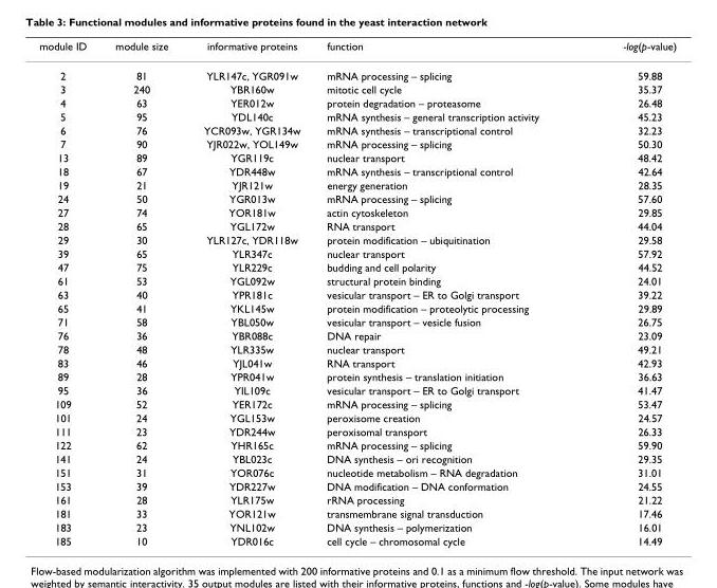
<table><thead><tr><td>module ID</td><td>module size</td><td>informative proteins</td><td>function</td><td>-log(p-value)</td></tr></thead><tbody><tr><td>2</td><td>81</td><td>YLR147c, YGR091w</td><td>mRNA processing – splicing</td><td>59.88</td></tr><tr><td>3</td><td>240</td><td>YBR160w</td><td>mitotic cell cycle</td><td>35.37</td></tr><tr><td>4</td><td>63</td><td>YER012w</td><td>protein degradation – proteasome</td><td>26.48</td></tr><tr><td>5</td><td>95</td><td>YDL140c</td><td>mRNA synthesis – general transcription activity</td><td>45.23</td></tr><tr><td>6</td><td>76</td><td>YCR093w, YGR134w</td><td>mRNA synthesis – transcriptional control</td><td>32.23</td></tr><tr><td>7</td><td>90</td><td>YJR022w, YOL149w</td><td>mRNA processing – splicing</td><td>50.30</td></tr><tr><td>13</td><td>89</td><td>YGR119c</td><td>nuclear transport</td><td>48.42</td></tr><tr><td>18</td><td>67</td><td>YDR448w</td><td>mRNA synthesis – transcriptional control</td><td>42.64</td></tr><tr><td>19</td><td>21</td><td>YJR121w</td><td>energy generation</td><td>28.35</td></tr><tr><td>24</td><td>50</td><td>YGR013w</td><td>mRNA processing – splicing</td><td>57.60</td></tr><tr><td>27</td><td>74</td><td>YOR181w</td><td>actin cytoskeleton</td><td>29.85</td></tr><tr><td>28</td><td>65</td><td>YGL172w</td><td>RNA transport</td><td>44.04</td></tr><tr><td>29</td><td>30</td><td>YLR127c, YDR118w</td><td>protein modification – ubiquitination</td><td>29.58</td></tr><tr><td>39</td><td>65</td><td>YLR347c</td><td>nuclear transport</td><td>57.92</td></tr><tr><td>47</td><td>75</td><td>YLR229c</td><td>budding and cell polarity</td><td>44.52</td></tr><tr><td>61</td><td>53</td><td>YGL092w</td><td>structural protein binding</td><td>24.01</td></tr><tr><td>63</td><td>40</td><td>YPR181c</td><td>vesicular transport – ER to Golgi transport</td><td>39.22</td></tr><tr><td>65</td><td>41</td><td>YKL145w</td><td>protein modification – proteolytic processing</td><td>29.89</td></tr><tr><td>71</td><td>58</td><td>YBL050w</td><td>vesicular transport – vesicle fusion</td><td>26.75</td></tr><tr><td>76</td><td>36</td><td>YBR088c</td><td>DNA repair</td><td>23.09</td></tr><tr><td>78</td><td>48</td><td>YLR335w</td><td>nuclear transport</td><td>49.21</td></tr><tr><td>83</td><td>46</td><td>YJL041w</td><td>RNA transport</td><td>42.93</td></tr><tr><td>89</td><td>28</td><td>YPR041w</td><td>protein synthesis – translation initiation</td><td>36.63</td></tr><tr><td>95</td><td>36</td><td>YIL109c</td><td>vesicular transport – ER to Golgi transport</td><td>41.47</td></tr><tr><td>109</td><td>52</td><td>YER172c</td><td>mRNA processing – splicing</td><td>53.47</td></tr><tr><td>101</td><td>24</td><td>YGL153w</td><td>peroxisome creation</td><td>24.57</td></tr><tr><td>111</td><td>23</td><td>YDR244w</td><td>peroxisomal transport</td><td>26.33</td></tr><tr><td>122</td><td>62</td><td>YHR165c</td><td>mRNA processing – splicing</td><td>59.90</td></tr><tr><td>141</td><td>24</td><td>YBL023c</td><td>DNA synthesis – ori recognition</td><td>29.35</td></tr><tr><td>151</td><td>31</td><td>YOR076c</td><td>nucleotide metabolism – RNA degradation</td><td>31.01</td></tr><tr><td>153</td><td>39</td><td>YDR227w</td><td>DNA modification – DNA conformation</td><td>24.55</td></tr><tr><td>161</td><td>28</td><td>YLR175w</td><td>rRNA processing</td><td>21.22</td></tr><tr><td>181</td><td>33</td><td>YOR121w</td><td>transmembrane signal transduction</td><td>17.46</td></tr><tr><td>183</td><td>23</td><td>YNL102w</td><td>DNA synthesis – polymerization</td><td>16.01</td></tr><tr><td>185</td><td>10</td><td>YDR016c</td><td>cell cycle – chromosomal cycle</td><td>14.49</td></tr></tbody></table>